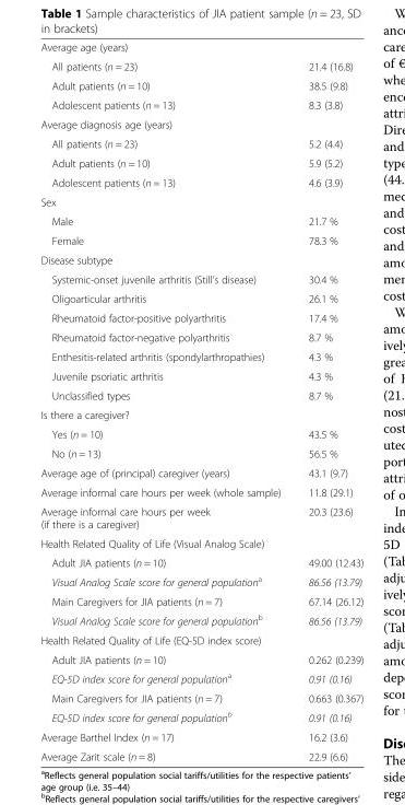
<table><tbody><tr><td colspan="2">Average age (years)</td></tr><tr><td>All patients (n = 23)</td><td>21.4 (16.8)</td></tr><tr><td>Adult patients (n = 10)</td><td>38.5 (9.8)</td></tr><tr><td>Adolescent patients (n = 13)</td><td>8.3 (3.8)</td></tr><tr><td colspan="2">Average diagnosis age (years)</td></tr><tr><td>All patients (n = 23)</td><td>5.2 (4.4)</td></tr><tr><td>Adult patients (n = 10)</td><td>5.9 (5.2)</td></tr><tr><td>Adolescent patients (n = 13)</td><td>4.6 (3.9)</td></tr><tr><td colspan="2">Sex</td></tr><tr><td>Male</td><td>21.7 %</td></tr><tr><td>Female</td><td>78.3 %</td></tr><tr><td colspan="2">Disease subtype</td></tr><tr><td>Systemic-onset juvenile arthritis (Still’s disease)</td><td>30.4 %</td></tr><tr><td>Oligoarticular arthritis</td><td>26.1 %</td></tr><tr><td>Rheumatoid factor-positive polyarthritis</td><td>17.4 %</td></tr><tr><td>Rheumatoid factor-negative polyarthritis</td><td>8.7 %</td></tr><tr><td>Enthesitis-related arthritis (spondylarthropathies)</td><td>4.3 %</td></tr><tr><td>Juvenile psoriatic arthritis</td><td>4.3 %</td></tr><tr><td>Unclassified types</td><td>8.7 %</td></tr><tr><td colspan="2">Is there a caregiver?</td></tr><tr><td>Yes (n = 10)</td><td>43.5 %</td></tr><tr><td>No (n = 13)</td><td>56.5 %</td></tr><tr><td>Average age of (principal) caregiver (years)</td><td>43.1 (9.7)</td></tr><tr><td>Average informal care hours per week (whole sample)</td><td>11.8 (29.1)</td></tr><tr><td>Average informal care hours per week (if there is a caregiver)</td><td>20.3 (23.6)</td></tr><tr><td colspan="2">Health Related Quality of Life (Visual Analog Scale)</td></tr><tr><td>Adult JIA patients (n = 10)</td><td>49.00 (12.43)</td></tr><tr><td>Visual Analog Scale score for general population<sup>a</sup></td><td>86.56 (13.79)</td></tr><tr><td>Main Caregivers for JIA patients (n = 7)</td><td>67.14 (26.12)</td></tr><tr><td>Visual Analog Scale score for general population<sup>b</sup></td><td>86.56 (13.79)</td></tr><tr><td colspan="2">Health Related Quality of Life (EQ-5D index score)</td></tr><tr><td>Adult JIA patients (n = 10)</td><td>0.262 (0.239)</td></tr><tr><td>EQ-5D index score for general population<sup>a</sup></td><td>0.91 (0.16)</td></tr><tr><td>Main Caregivers for JIA patients (n = 7)</td><td>0.663 (0.367)</td></tr><tr><td>EQ-5D index score for general population<sup>b</sup></td><td>0.91 (0.16)</td></tr><tr><td>Average Barthel Index (n = 17)</td><td>16.2 (3.6)</td></tr><tr><td>Average Zarit scale (n = 8)</td><td>22.9 (6.6)</td></tr></tbody></table>